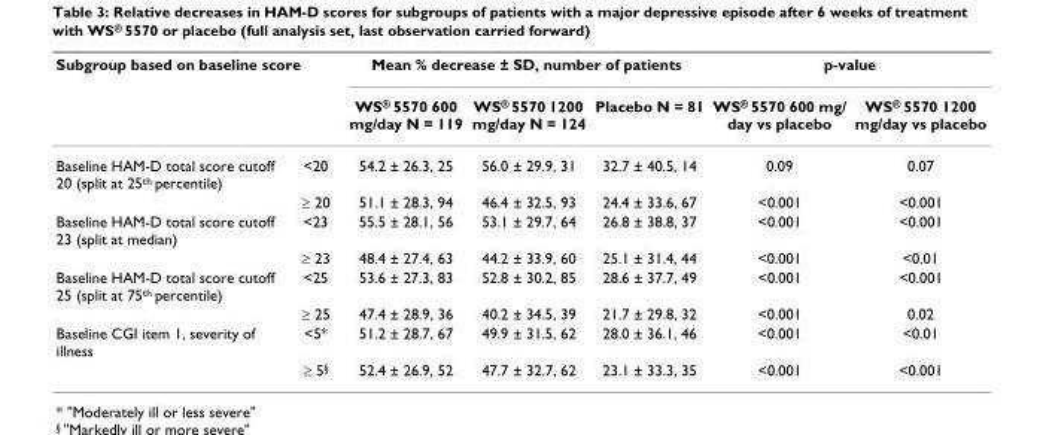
<table><thead><tr><td colspan="2">Subgroup based on baseline score</td><td colspan="3">Mean % decrease ± SD, number of patients</td><td colspan="2">p-value</td></tr><tr><td></td><td></td><td>WS® 5570 600 mg/day N = 119</td><td>WS® 5570 1200 mg/day N = 124</td><td>Placebo N = 81</td><td>WS® 5570 600 mg/ day vs placebo</td><td>WS® 5570 1200 mg/day vs placebo</td></tr></thead><tbody><tr><td rowspan="2">Baseline HAM-D total score cutoff 20 (split at 25th percentile)</td><td>&lt;20</td><td>54.2 ± 26.3, 25</td><td>56.0 ± 29.9, 31</td><td>32.7 ± 40.5, 14</td><td>0.09</td><td>0.07</td></tr><tr><td>≥ 20</td><td>51.1 ± 28.3, 94</td><td>46.4 ± 32.5, 93</td><td>24.4 ± 33.6, 67</td><td>&lt;0.001</td><td>&lt;0.001</td></tr><tr><td rowspan="2">Baseline HAM-D total score cutoff 23 (split at median)</td><td>&lt;23</td><td>55.5 ± 28.1, 56</td><td>53.1 ± 29.7, 64</td><td>26.8 ± 38.8, 37</td><td>&lt;0.001</td><td>&lt;0.001</td></tr><tr><td>≥ 23</td><td>48.4 ± 27.4, 63</td><td>44.2 ± 33.9, 60</td><td>25.1 ± 31.4, 44</td><td>&lt;0.001</td><td>&lt;0.01</td></tr><tr><td rowspan="2">Baseline HAM-D total score cutoff 25 (split at 75th percentile)</td><td>&lt;25</td><td>53.6 ± 27.3, 83</td><td>52.8 ± 30.2, 85</td><td>28.6 ± 37.7, 49</td><td>&lt;0.001</td><td>&lt;0.001</td></tr><tr><td>≥ 25</td><td>47.4 ± 28.9, 36</td><td>40.2 ± 34.5, 39</td><td>21.7 ± 29.8, 32</td><td>&lt;0.001</td><td>0.02</td></tr><tr><td rowspan="2">Baseline CGI item 1, severity of illness</td><td>&lt;5*</td><td>51.2 ± 28.7, 67</td><td>49.9 ± 31.5, 62</td><td>28.0 ± 36.1, 46</td><td>&lt;0.001</td><td>&lt;0.01</td></tr><tr><td>≥ 5§</td><td>52.4 ± 26.9, 52</td><td>47.7 ± 32.7, 62</td><td>23.1 ± 33.3, 35</td><td>&lt;0.001</td><td>&lt;0.001</td></tr></tbody></table>